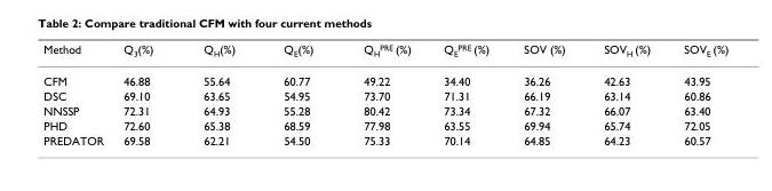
<table><thead><tr><td>Method</td><td>Q3(%)</td><td>QH(%)</td><td>QE(%)</td><td>QHPRE (%)</td><td>QEPRE (%)</td><td>SOV (%)</td><td>SOVH (%)</td><td>SOVE (%)</td></tr></thead><tbody><tr><td>CFM</td><td>46.88</td><td>55.64</td><td>60.77</td><td>49.22</td><td>34.40</td><td>36.26</td><td>42.63</td><td>43.95</td></tr><tr><td>DSC</td><td>69.10</td><td>63.65</td><td>54.95</td><td>73.70</td><td>71.31</td><td>66.19</td><td>63.14</td><td>60.86</td></tr><tr><td>NNSSP</td><td>72.31</td><td>64.93</td><td>55.28</td><td>80.42</td><td>73.34</td><td>67.32</td><td>66.07</td><td>63.40</td></tr><tr><td>PHD</td><td>72.60</td><td>65.38</td><td>68.59</td><td>77.98</td><td>63.55</td><td>69.94</td><td>65.74</td><td>72.05</td></tr><tr><td>PREDATOR</td><td>69.58</td><td>62.21</td><td>54.50</td><td>75.33</td><td>70.14</td><td>64.85</td><td>64.23</td><td>60.57</td></tr></tbody></table>